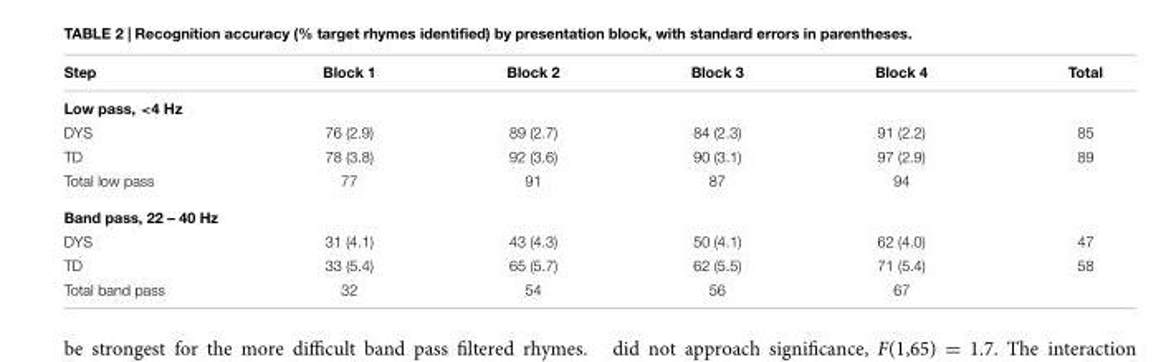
<table><thead><tr><td>Step</td><td>Block 1</td><td>Block 2</td><td>Block 3</td><td>Block 4</td><td>Total</td></tr></thead><tbody><tr><td colspan="6">Low pass, &lt;4 Hz</td></tr><tr><td>DYS</td><td>76 (2.9)</td><td>89 (2.7)</td><td>84 (2.3)</td><td>91 (2.2)</td><td>85</td></tr><tr><td>TD</td><td>78 (3.8)</td><td>92 (3.6)</td><td>90 (3.1)</td><td>97 (2.9)</td><td>89</td></tr><tr><td>Total low pass</td><td>77</td><td>91</td><td>87</td><td>94</td><td></td></tr><tr><td colspan="6">Band pass, 22 – 40 Hz</td></tr><tr><td>DYS</td><td>31 (4.1)</td><td>43 (4.3)</td><td>50 (4.1)</td><td>62 (4.0)</td><td>47</td></tr><tr><td>TD</td><td>33 (5.4)</td><td>65 (5.7)</td><td>62 (5.5)</td><td>71 (5.4)</td><td>58</td></tr><tr><td>Total band pass</td><td>32</td><td>54</td><td>56</td><td>67</td><td></td></tr></tbody></table>